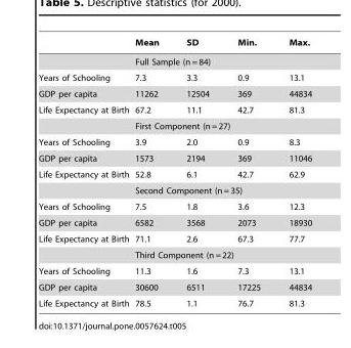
<table><thead><tr><td></td><td>Mean</td><td>SD</td><td>Min.</td><td>Max.</td></tr></thead><tbody><tr><td></td><td colspan="4">Full Sample (n = 84)</td></tr><tr><td>Years of Schooling</td><td>7.3</td><td>3.3</td><td>0.9</td><td>13.1</td></tr><tr><td>GDP per capita</td><td>11262</td><td>12504</td><td>369</td><td>44834</td></tr><tr><td rowspan="2">Life Expectancy at Birth</td><td>67.2</td><td>11.1</td><td>42.7</td><td>81.3</td></tr><tr><td colspan="4">First Component (n = 27)</td></tr><tr><td>Years of Schooling</td><td>3.9</td><td>2.0</td><td>0.9</td><td>8.3</td></tr><tr><td>GDP per capita</td><td>1573</td><td>2194</td><td>369</td><td>11046</td></tr><tr><td rowspan="2">Life Expectancy at Birth</td><td>52.8</td><td>6.1</td><td>42.7</td><td>62.9</td></tr><tr><td colspan="4">Second Component (n = 35)</td></tr><tr><td>Years of Schooling</td><td>7.5</td><td>1.8</td><td>3.6</td><td>12.3</td></tr><tr><td>GDP per capita</td><td>6582</td><td>3568</td><td>2073</td><td>18930</td></tr><tr><td rowspan="2">Life Expectancy at Birth</td><td>71.1</td><td>2.6</td><td>67.3</td><td>77.7</td></tr><tr><td colspan="4">Third Component (n = 22)</td></tr><tr><td>Years of Schooling</td><td>11.3</td><td>1.6</td><td>7.3</td><td>13.1</td></tr><tr><td>GDP per capita</td><td>30600</td><td>6511</td><td>17225</td><td>44834</td></tr><tr><td>Life Expectancy at Birth</td><td>78.5</td><td>1.1</td><td>76.7</td><td>81.3</td></tr></tbody></table>